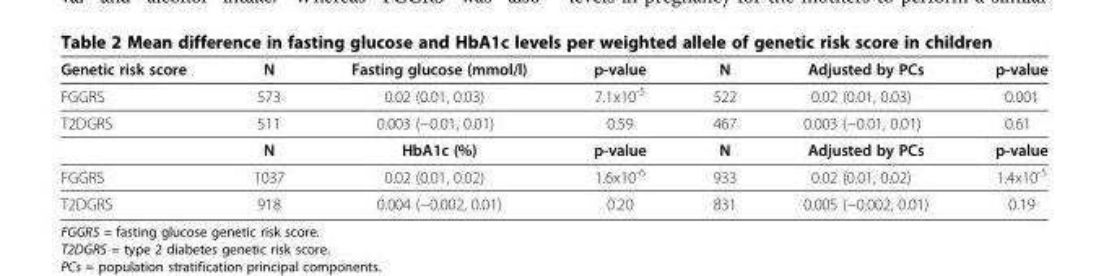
<table><thead><tr><td>Genetic risk score</td><td>N</td><td>Fasting glucose (mmol/l)</td><td>p-value</td><td>N</td><td>Adjusted by PCs</td><td>p-value</td></tr></thead><tbody><tr><td>FGGRS</td><td>573</td><td>0.02 (0.01, 0.03)</td><td>7.1x10<sup>-5</sup></td><td>522</td><td>0.02 (0.01, 0.03)</td><td>0.001</td></tr><tr><td rowspan="2">T2DGRS</td><td>511</td><td>0.003 (−0.01, 0.01)</td><td>0.59</td><td>467</td><td>0.003 (−0.01, 0.01)</td><td>0.61</td></tr><tr><td>N</td><td>HbA1c (%)</td><td>p-value</td><td>N</td><td>Adjusted by PCs</td><td>p-value</td></tr><tr><td>FGGRS</td><td>1037</td><td>0.02 (0.01, 0.02)</td><td>1.6x10<sup>-6</sup></td><td>933</td><td>0.02 (0.01, 0.02)</td><td>1.4x10<sup>-5</sup></td></tr><tr><td>T2DGRS</td><td>918</td><td>0.004 (−0.002, 0.01)</td><td>0.20</td><td>831</td><td>0.005 (−0.002, 0.01)</td><td>0.19</td></tr></tbody></table>